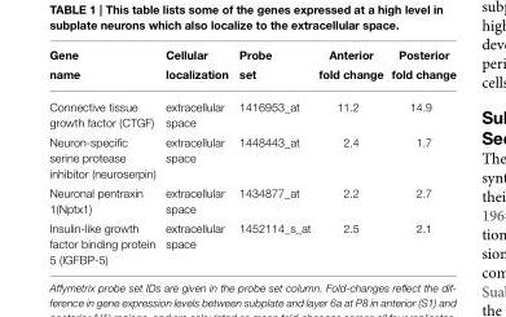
<table><thead><tr><td>Gene name</td><td>Cellular localization</td><td>Probe set</td><td>Anterior fold change</td><td>Posterior fold change</td></tr></thead><tbody><tr><td>Connective tissue growth factor (CTGF)</td><td>extracellular space</td><td>1416953_at</td><td>11.2</td><td>14.9</td></tr><tr><td>Neuron-specific serine protease inhibitor (neuroserpin)</td><td>extracellular space</td><td>1448443_at</td><td>2.4</td><td>1.7</td></tr><tr><td>Neuronal pentraxin 1(Nptx1)</td><td>extracellular space</td><td>1434877_at</td><td>2.2</td><td>2.7</td></tr><tr><td>Insulin-like growth factor binding protein 5 (IGFBP-5)</td><td>extracellular space</td><td>1452114_s_at</td><td>2.5</td><td>2.1</td></tr></tbody></table>